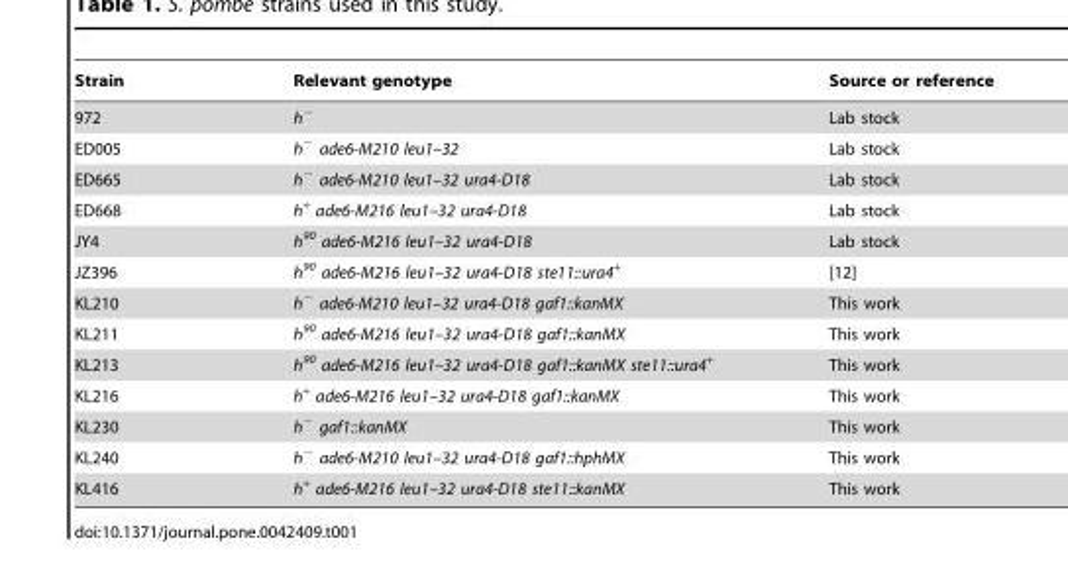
<table><thead><tr><td>Strain</td><td>Relevant genotype</td><td>Source or reference</td></tr></thead><tbody><tr><td>972</td><td>h<sup>−</sup></td><td>Lab stock</td></tr><tr><td>ED005</td><td>h<sup>−</sup> ade6-M210 leu1–32</td><td>Lab stock</td></tr><tr><td>ED665</td><td>h<sup>−</sup> ade6-M210 leu1–32 ura4-D18</td><td>Lab stock</td></tr><tr><td>ED668</td><td>h<sup>+</sup> ade6-M216 leu1–32 ura4-D18</td><td>Lab stock</td></tr><tr><td>JY4</td><td>h<sup>90</sup> ade6-M216 leu1–32 ura4-D18</td><td>Lab stock</td></tr><tr><td>JZ396</td><td>h<sup>90</sup> ade6-M216 leu1–32 ura4-D18 ste11::ura4<sup>+</sup></td><td>[12]</td></tr><tr><td>KL210</td><td>h<sup>−</sup> ade6-M210 leu1–32 ura4-D18 gaf1::kanMX</td><td>This work</td></tr><tr><td>KL211</td><td>h<sup>90</sup> ade6-M216 leu1–32 ura4-D18 gaf1::kanMX</td><td>This work</td></tr><tr><td>KL213</td><td>h<sup>90</sup> ade6-M216 leu1–32 ura4-D18 gaf1::kanMX ste11::ura4<sup>+</sup></td><td>This work</td></tr><tr><td>KL216</td><td>h<sup>+</sup> ade6-M216 leu1–32 ura4-D18 gaf1::kanMX</td><td>This work</td></tr><tr><td>KL230</td><td>h<sup>−</sup> gaf1::kanMX</td><td>This work</td></tr><tr><td>KL240</td><td>h<sup>−</sup> ade6-M210 leu1–32 ura4-D18 gaf1::hphMX</td><td>This work</td></tr><tr><td>KL416</td><td>h<sup>+</sup> ade6-M216 leu1–32 ura4-D18 ste11::kanMX</td><td>This work</td></tr></tbody></table>